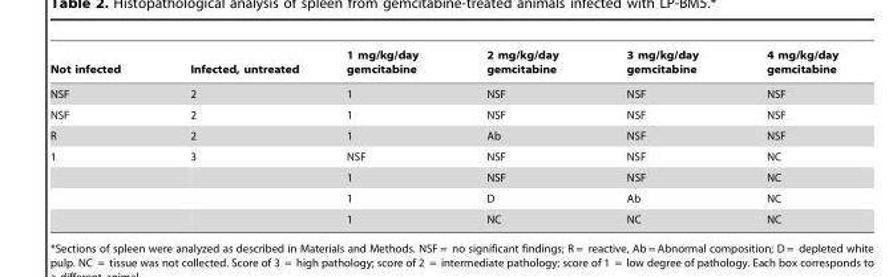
<table><thead><tr><td>Not infected</td><td>Infected, untreated</td><td>1 mg/kg/day gemcitabine</td><td>2 mg/kg/day gemcitabine</td><td>3 mg/kg/day gemcitabine</td><td>4 mg/kg/day gemcitabine</td></tr></thead><tbody><tr><td>NSF</td><td>2</td><td>1</td><td>NSF</td><td>NSF</td><td>NSF</td></tr><tr><td>NSF</td><td>2</td><td>1</td><td>NSF</td><td>NSF</td><td>NSF</td></tr><tr><td>R</td><td>2</td><td>1</td><td>Ab</td><td>NSF</td><td>NSF</td></tr><tr><td rowspan="4">1</td><td>3</td><td>NSF</td><td>NSF</td><td>NSF</td><td>NC</td></tr><tr><td></td><td>1</td><td>NSF</td><td>NSF</td><td>NC</td></tr><tr><td></td><td>1</td><td>D</td><td>Ab</td><td>NC</td></tr><tr><td></td><td>1</td><td>NC</td><td>NC</td><td>NC</td></tr></tbody></table>